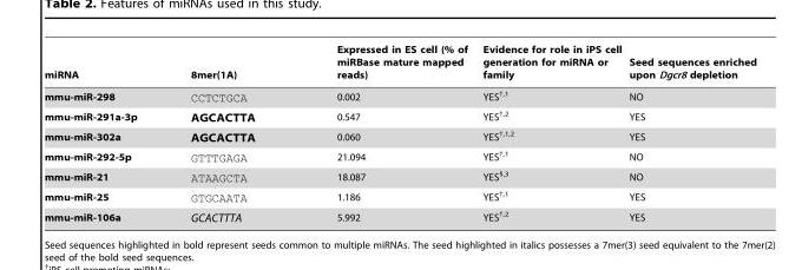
<table><thead><tr><td>miRNA</td><td>8mer(1A)</td><td>Expressed in ES cell (% of miRBase mature mapped reads)</td><td>Evidence for role in iPS cell generation for miRNA or family</td><td>Seed sequences enriched upon Dgcr8 depletion</td></tr></thead><tbody><tr><td>mmu-miR-298</td><td>CCTCTGCA</td><td>0.002</td><td>YES†<sup>,</sup>1</td><td>NO</td></tr><tr><td>mmu-miR-291a-3p</td><td>AGCACTTA</td><td>0.547</td><td>YES†<sup>,</sup>2</td><td>YES</td></tr><tr><td>mmu-miR-302a</td><td>AGCACTTA</td><td>0.060</td><td>YES†<sup>,</sup>1<sup>,</sup>2</td><td>YES</td></tr><tr><td>mmu-miR-292-5p</td><td>GTTTGAGA</td><td>21.094</td><td>YES†<sup>,</sup>1</td><td>NO</td></tr><tr><td>mmu-miR-21</td><td>ATAAGCTA</td><td>18.087</td><td>YES§<sup>,</sup>3</td><td>NO</td></tr><tr><td>mmu-miR-25</td><td>GTGCAATA</td><td>1.186</td><td>YES†<sup>,</sup>1</td><td>YES</td></tr><tr><td>mmu-miR-106a</td><td>GCACTTTA</td><td>5.992</td><td>YES†<sup>,</sup>2</td><td>YES</td></tr></tbody></table>